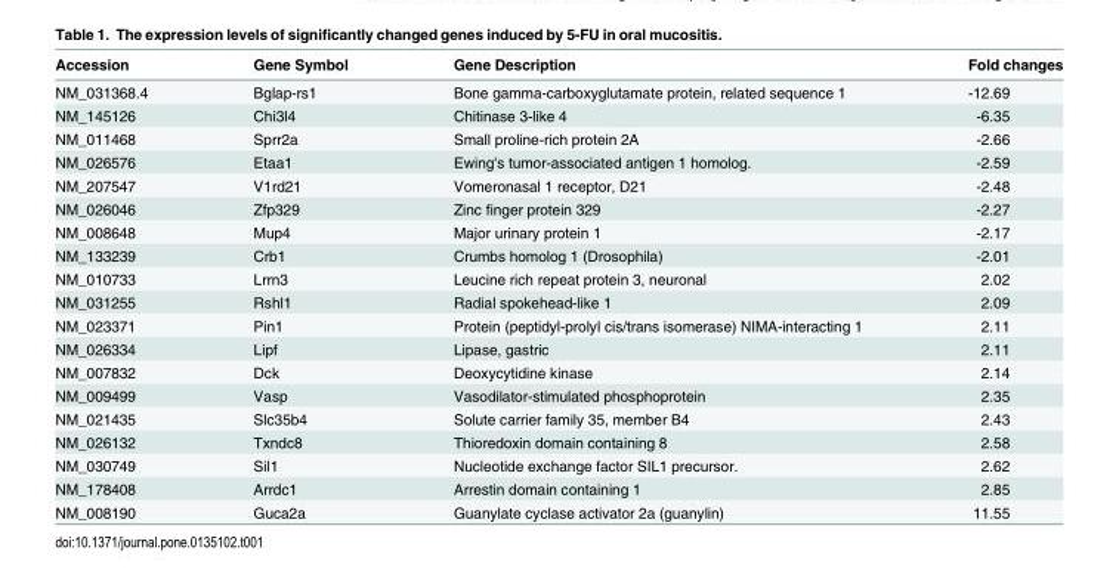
<table><thead><tr><td>Accession</td><td>Gene Symbol</td><td>Gene Description</td><td>Fold changes</td></tr></thead><tbody><tr><td>NM_031368.4</td><td>Bglap-rs1</td><td>Bone gamma-carboxyglutamate protein, related sequence 1</td><td>-12.69</td></tr><tr><td>NM_145126</td><td>Chi3l4</td><td>Chitinase 3-like 4</td><td>-6.35</td></tr><tr><td>NM_011468</td><td>Sprr2a</td><td>Small proline-rich protein 2A</td><td>-2.66</td></tr><tr><td>NM_026576</td><td>Etaa1</td><td>Ewing&#x27;s tumor-associated antigen 1 homolog.</td><td>-2.59</td></tr><tr><td>NM_207547</td><td>V1rd21</td><td>Vomeronasal 1 receptor, D21</td><td>-2.48</td></tr><tr><td>NM_026046</td><td>Zfp329</td><td>Zinc finger protein 329</td><td>-2.27</td></tr><tr><td>NM_008648</td><td>Mup4</td><td>Major urinary protein 1</td><td>-2.17</td></tr><tr><td>NM_133239</td><td>Crb1</td><td>Crumbs homolog 1 (Drosophila)</td><td>-2.01</td></tr><tr><td>NM_010733</td><td>Lrrn3</td><td>Leucine rich repeat protein 3, neuronal</td><td>2.02</td></tr><tr><td>NM_031255</td><td>Rshl1</td><td>Radial spokehead-like 1</td><td>2.09</td></tr><tr><td>NM_023371</td><td>Pin1</td><td>Protein (peptidyl-prolyl cis/trans isomerase) NIMA-interacting 1</td><td>2.11</td></tr><tr><td>NM_026334</td><td>Lipf</td><td>Lipase, gastric</td><td>2.11</td></tr><tr><td>NM_007832</td><td>Dck</td><td>Deoxycytidine kinase</td><td>2.14</td></tr><tr><td>NM_009499</td><td>Vasp</td><td>Vasodilator-stimulated phosphoprotein</td><td>2.35</td></tr><tr><td>NM_021435</td><td>Slc35b4</td><td>Solute carrier family 35, member B4</td><td>2.43</td></tr><tr><td>NM_026132</td><td>Txndc8</td><td>Thioredoxin domain containing 8</td><td>2.58</td></tr><tr><td>NM_030749</td><td>Sil1</td><td>Nucleotide exchange factor SIL1 precursor.</td><td>2.62</td></tr><tr><td>NM_178408</td><td>Arrdc1</td><td>Arrestin domain containing 1</td><td>2.85</td></tr><tr><td>NM_008190</td><td>Guca2a</td><td>Guanylate cyclase activator 2a (guanylin)</td><td>11.55</td></tr></tbody></table>